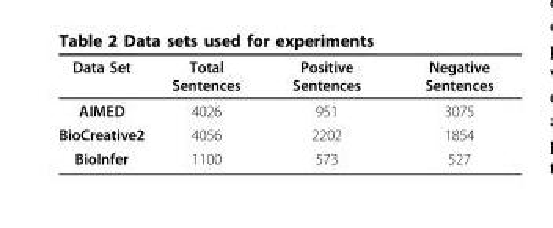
<table><thead><tr><td>Data Set</td><td>Total Sentences</td><td>Positive Sentences</td><td>Negative Sentences</td></tr></thead><tbody><tr><td>AIMED</td><td>4026</td><td>951</td><td>3075</td></tr><tr><td>BioCreative2</td><td>4056</td><td>2202</td><td>1854</td></tr><tr><td>BioInfer</td><td>1100</td><td>573</td><td>527</td></tr></tbody></table>